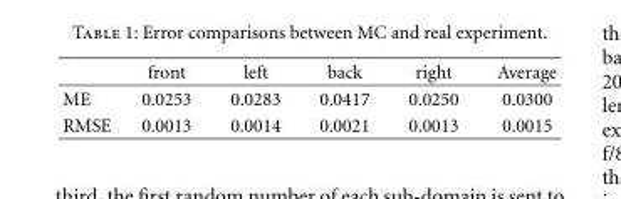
<table><thead><tr><td></td><td>front</td><td>left</td><td>back</td><td>right</td><td>Average</td></tr></thead><tbody><tr><td>ME</td><td>0.0253</td><td>0.0283</td><td>0.0417</td><td>0.0250</td><td>0.0300</td></tr><tr><td>RMSE</td><td>0.0013</td><td>0.0014</td><td>0.0021</td><td>0.0013</td><td>0.0015</td></tr></tbody></table>